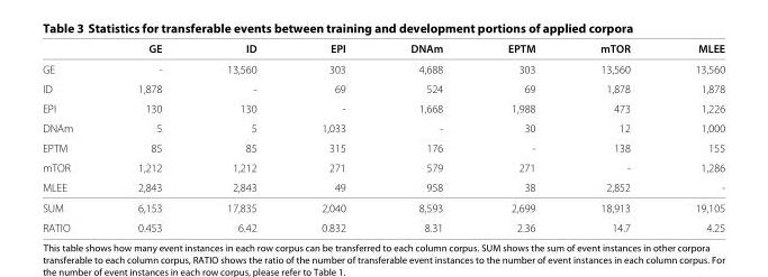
<table><thead><tr><td></td><td>GE</td><td>ID</td><td>EPI</td><td>DNAm</td><td>EPTM</td><td>mTOR</td><td>MLEE</td></tr></thead><tbody><tr><td>GE</td><td>-</td><td>13,560</td><td>303</td><td>4,688</td><td>303</td><td>13,560</td><td>13,560</td></tr><tr><td>ID</td><td>1,878</td><td>-</td><td>69</td><td>524</td><td>69</td><td>1,878</td><td>1,878</td></tr><tr><td>EPI</td><td>130</td><td>130</td><td>-</td><td>1,668</td><td>1,988</td><td>473</td><td>1,226</td></tr><tr><td>DNAm</td><td>5</td><td>5</td><td>1,033</td><td>-</td><td>30</td><td>12</td><td>1,000</td></tr><tr><td>EPTM</td><td>85</td><td>85</td><td>315</td><td>176</td><td>-</td><td>138</td><td>155</td></tr><tr><td>mTOR</td><td>1,212</td><td>1,212</td><td>271</td><td>579</td><td>271</td><td>-</td><td>1,286</td></tr><tr><td>MLEE</td><td>2,843</td><td>2,843</td><td>49</td><td>958</td><td>38</td><td>2,852</td><td>-</td></tr><tr><td>SUM</td><td>6,153</td><td>17,835</td><td>2,040</td><td>8,593</td><td>2,699</td><td>18,913</td><td>19,105</td></tr><tr><td>RATIO</td><td>0.453</td><td>6.42</td><td>0.832</td><td>8.31</td><td>2.36</td><td>14.7</td><td>4.25</td></tr></tbody></table>